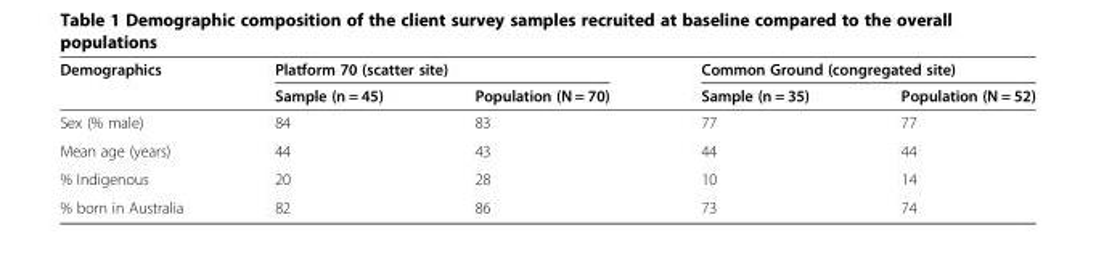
<table><thead><tr><td rowspan="2">Demographics</td><td colspan="2">Platform 70 (scatter site)</td><td colspan="2">Common Ground (congregated site)</td></tr><tr><td>Sample (n = 45)</td><td>Population (N = 70)</td><td>Sample (n = 35)</td><td>Population (N = 52)</td></tr></thead><tbody><tr><td>Sex (% male)</td><td>84</td><td>83</td><td>77</td><td>77</td></tr><tr><td>Mean age (years)</td><td>44</td><td>43</td><td>44</td><td>44</td></tr><tr><td>% Indigenous</td><td>20</td><td>28</td><td>10</td><td>14</td></tr><tr><td>% born in Australia</td><td>82</td><td>86</td><td>73</td><td>74</td></tr></tbody></table>